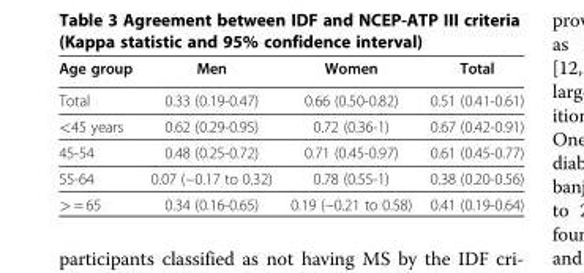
<table><thead><tr><td>Age group</td><td>Men</td><td>Women</td><td>Total</td></tr></thead><tbody><tr><td>Total</td><td>0.33 (0.19-0.47)</td><td>0.66 (0.50-0.82)</td><td>0.51 (0.41-0.61)</td></tr><tr><td>&lt;45 years</td><td>0.62 (0.29-0.95)</td><td>0.72 (0.36-1)</td><td>0.67 (0.42-0.91)</td></tr><tr><td>45-54</td><td>0.48 (0.25-0.72)</td><td>0.71 (0.45-0.97)</td><td>0.61 (0.45-0.77)</td></tr><tr><td>55-64</td><td>0.07 (−0.17 to 0.32)</td><td>0.78 (0.55-1)</td><td>0.38 (0.20-0.56)</td></tr><tr><td>&gt; = 65</td><td>0.34 (0.16-0.65)</td><td>0.19 (−0.21 to 0.58)</td><td>0.41 (0.19-0.64)</td></tr></tbody></table>